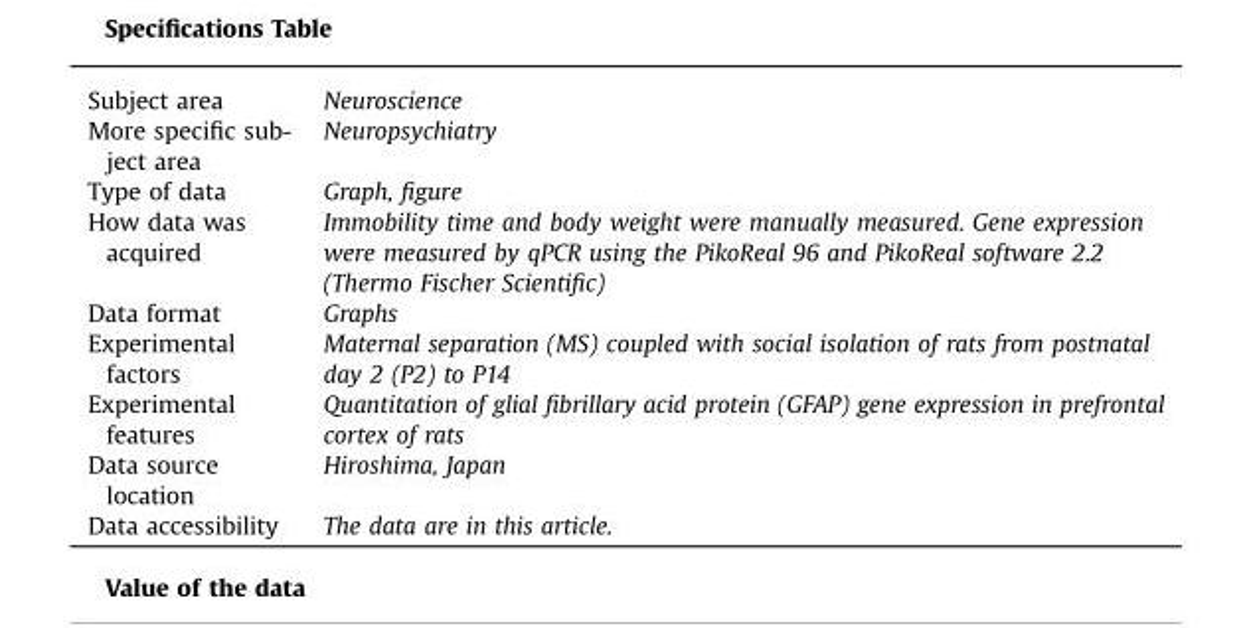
<table><tbody><tr><td>Subject area</td><td>Neuroscience</td></tr><tr><td>More specific sub- ject area</td><td>Neuropsychiatry</td></tr><tr><td>Type of data</td><td>Graph, figure</td></tr><tr><td>How data was acquired</td><td>Immobility time and body weight were manually measured. Gene expression were measured by qPCR using the PikoReal 96 and PikoReal software 2.2 (Thermo Fischer Scientific)</td></tr><tr><td>Data format</td><td>Graphs</td></tr><tr><td>Experimental factors</td><td>Maternal separation (MS) coupled with social isolation of rats from postnatal day 2 (P2) to P14</td></tr><tr><td>Experimental features</td><td>Quantitation of glial fibrillary acid protein (GFAP) gene expression in prefrontal cortex of rats</td></tr><tr><td>Data source location</td><td>Hiroshima, Japan</td></tr><tr><td>Data accessibility</td><td>The data are in this article.</td></tr></tbody></table>